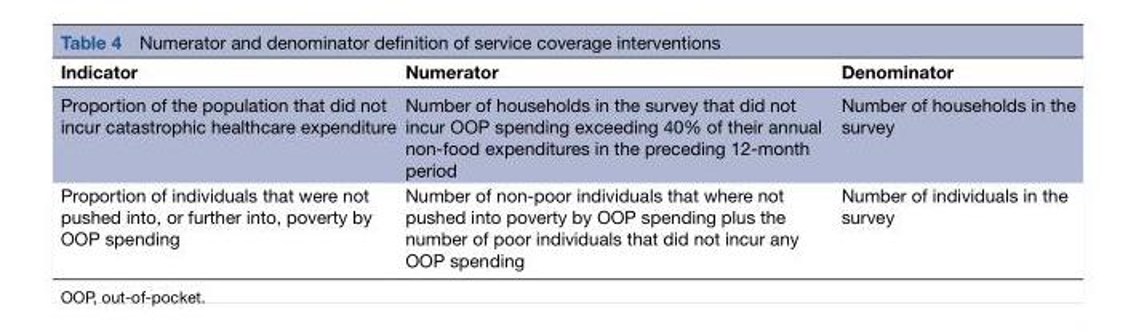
<table><thead><tr><td>Indicator</td><td>Numerator</td><td>Denominator</td></tr></thead><tbody><tr><td>Proportion of the population that did not incur catastrophic healthcare expenditure</td><td>Number of households in the survey that did not incur OOP spending exceeding 40% of their annual non-food expenditures in the preceding 12-month period</td><td>Number of households in the survey</td></tr><tr><td>Proportion of individuals that were not pushed into, or further into, poverty by OOP spending</td><td>Number of non-poor individuals that where not pushed into poverty by OOP spending plus the number of poor individuals that did not incur any OOP spending</td><td>Number of individuals in the survey</td></tr></tbody></table>